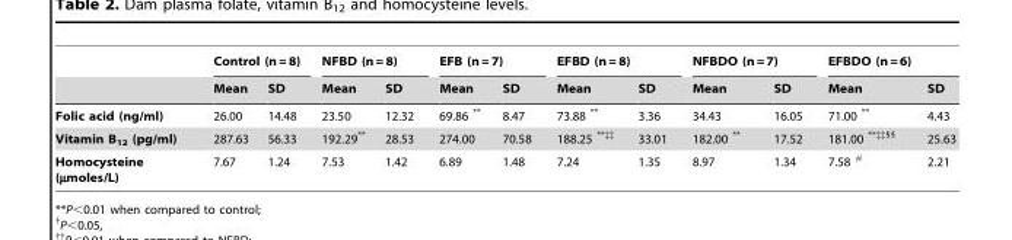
<table><thead><tr><td rowspan="2"></td><td colspan="2">Control (n = 8)</td><td colspan="2">NFBD (n = 8)</td><td colspan="2">EFB (n = 7)</td><td colspan="2">EFBD (n = 8)</td><td colspan="2">NFBDO (n = 7)</td><td colspan="2">EFBDO (n = 6)</td></tr><tr><td>Mean</td><td>SD</td><td>Mean</td><td>SD</td><td>Mean</td><td>SD</td><td>Mean</td><td>SD</td><td>Mean</td><td>SD</td><td>Mean</td><td>SD</td></tr></thead><tbody><tr><td>Folic acid (ng/ml)</td><td>26.00</td><td>14.48</td><td>23.50</td><td>12.32</td><td>69.86 **</td><td>8.47</td><td>73.88 **</td><td>3.36</td><td>34.43</td><td>16.05</td><td>71.00 **</td><td>4.43</td></tr><tr><td>Vitamin B<sub>12</sub> (pg/ml)</td><td>287.63</td><td>56.33</td><td>192.29**</td><td>28.53</td><td>274.00</td><td>70.58</td><td>188.25 **‡‡</td><td>33.01</td><td>182.00 **</td><td>17.52</td><td>181.00 **‡‡§§</td><td>25.63</td></tr><tr><td>Homocysteine (µmoles/L)</td><td>7.67</td><td>1.24</td><td>7.53</td><td>1.42</td><td>6.89</td><td>1.48</td><td>7.24</td><td>1.35</td><td>8.97</td><td>1.34</td><td>7.58 <sup>#</sup></td><td>2.21</td></tr></tbody></table>